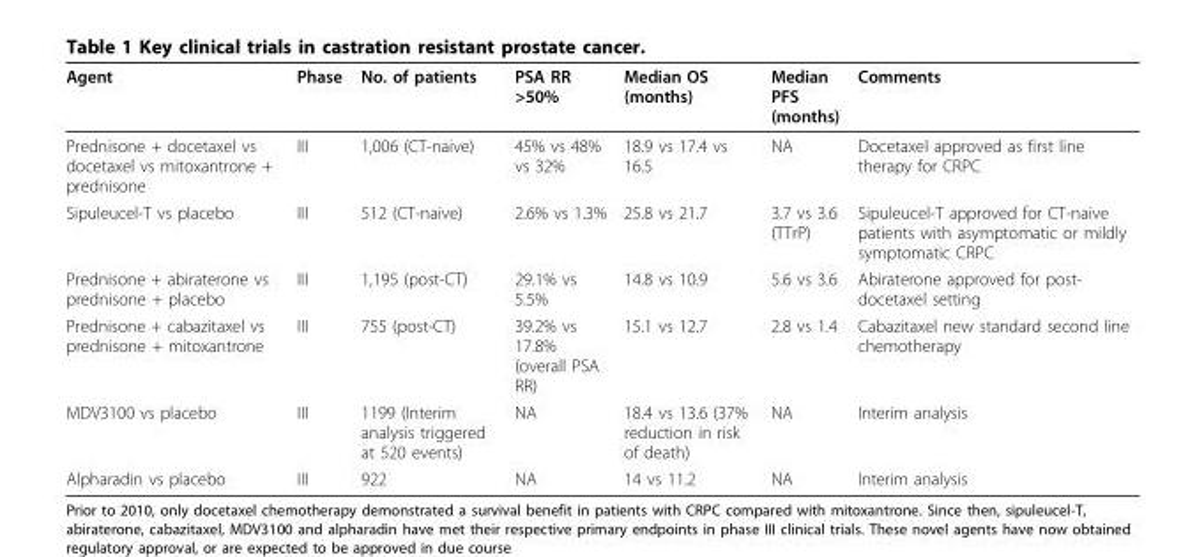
<table><thead><tr><td>Agent</td><td>Phase</td><td>No. of patients</td><td>PSA RR &gt;50%</td><td>Median OS (months)</td><td>Median PFS (months)</td><td>Comments</td></tr></thead><tbody><tr><td>Prednisone + docetaxel vs docetaxel vs mitoxantrone + prednisone</td><td>III</td><td>1,006 (CT-naive)</td><td>45% vs 48% vs 32%</td><td>18.9 vs 17.4 vs 16.5</td><td>NA</td><td>Docetaxel approved as first line therapy for CRPC</td></tr><tr><td>Sipuleucel-T vs placebo</td><td>III</td><td>512 (CT-naive)</td><td>2.6% vs 1.3%</td><td>25.8 vs 21.7</td><td>3.7 vs 3.6 (TTrP)</td><td>Sipuleucel-T approved for CT-naive patients with asymptomatic or mildly symptomatic CRPC</td></tr><tr><td>Prednisone + abiraterone vs prednisone + placebo</td><td>III</td><td>1,195 (post-CT)</td><td>29.1% vs 5.5%</td><td>14.8 vs 10.9</td><td>5.6 vs 3.6</td><td>Abiraterone approved for post- docetaxel setting</td></tr><tr><td>Prednisone + cabazitaxel vs prednisone + mitoxantrone</td><td>III</td><td>755 (post-CT)</td><td>39.2% vs 17.8% (overall PSA RR)</td><td>15.1 vs 12.7</td><td>2.8 vs 1.4</td><td>Cabazitaxel new standard second line chemotherapy</td></tr><tr><td>MDV3100 vs placebo</td><td>III</td><td>1199 (Interim analysis triggered at 520 events)</td><td>NA</td><td>18.4 vs 13.6 (37% reduction in risk of death)</td><td>NA</td><td>Interim analysis</td></tr><tr><td>Alpharadin vs placebo</td><td>III</td><td>922</td><td>NA</td><td>14 vs 11.2</td><td>NA</td><td>Interim analysis</td></tr></tbody></table>